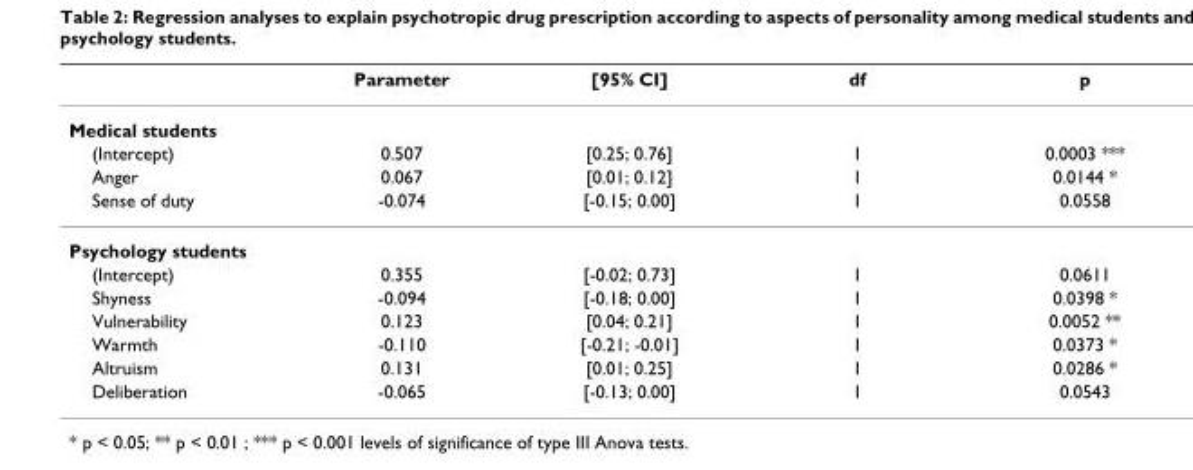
<table><thead><tr><td></td><td>Parameter</td><td>[95% CI]</td><td>df</td><td>p</td></tr></thead><tbody><tr><td colspan="5">Medical students</td></tr><tr><td>(Intercept)</td><td>0.507</td><td>[0.25; 0.76]</td><td>1</td><td>0.0003 ***</td></tr><tr><td>Anger</td><td>0.067</td><td>[0.01; 0.12]</td><td>1</td><td>0.0144 *</td></tr><tr><td>Sense of duty</td><td>-0.074</td><td>[-0.15; 0.00]</td><td>1</td><td>0.0558</td></tr><tr><td colspan="5">Psychology students</td></tr><tr><td>(Intercept)</td><td>0.355</td><td>[-0.02; 0.73]</td><td>1</td><td>0.0611</td></tr><tr><td>Shyness</td><td>-0.094</td><td>[-0.18; 0.00]</td><td>1</td><td>0.0398 *</td></tr><tr><td>Vulnerability</td><td>0.123</td><td>[0.04; 0.21]</td><td>1</td><td>0.0052 **</td></tr><tr><td>Warmth</td><td>-0.110</td><td>[-0.21; -0.01]</td><td>1</td><td>0.0373 *</td></tr><tr><td>Altruism</td><td>0.131</td><td>[0.01; 0.25]</td><td>1</td><td>0.0286 *</td></tr><tr><td>Deliberation</td><td>-0.065</td><td>[-0.13; 0.00]</td><td>1</td><td>0.0543</td></tr></tbody></table>